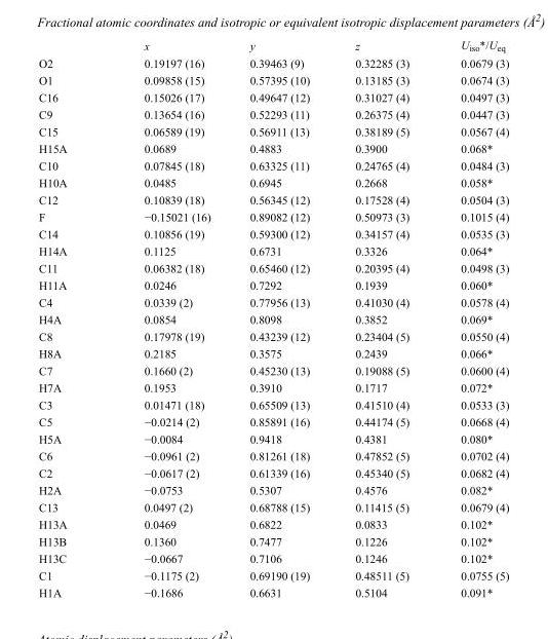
<table><thead><tr><td></td><td>x</td><td>y</td><td>z</td><td>U<sub>iso</sub>*/U<sub>eq</sub></td></tr></thead><tbody><tr><td>O2</td><td>0.19197 (16)</td><td>0.39463 (9)</td><td>0.32285 (3)</td><td>0.0679 (3)</td></tr><tr><td>O1</td><td>0.09858 (15)</td><td>0.57395 (10)</td><td>0.13185 (3)</td><td>0.0674 (3)</td></tr><tr><td>C16</td><td>0.15026 (17)</td><td>0.49647 (12)</td><td>0.31027 (4)</td><td>0.0497 (3)</td></tr><tr><td>C9</td><td>0.13654 (16)</td><td>0.52293 (11)</td><td>0.26375 (4)</td><td>0.0447 (3)</td></tr><tr><td>C15</td><td>0.06589 (19)</td><td>0.56911 (13)</td><td>0.38189 (5)</td><td>0.0567 (4)</td></tr><tr><td>H15A</td><td>0.0689</td><td>0.4883</td><td>0.3900</td><td>0.068*</td></tr><tr><td>C10</td><td>0.07845 (18)</td><td>0.63325 (11)</td><td>0.24765 (4)</td><td>0.0484 (3)</td></tr><tr><td>H10A</td><td>0.0485</td><td>0.6945</td><td>0.2668</td><td>0.058*</td></tr><tr><td>C12</td><td>0.10839 (18)</td><td>0.56345 (12)</td><td>0.17528 (4)</td><td>0.0504 (3)</td></tr><tr><td>F</td><td>−0.15021 (16)</td><td>0.89082 (12)</td><td>0.50973 (3)</td><td>0.1015 (4)</td></tr><tr><td>C14</td><td>0.10856 (19)</td><td>0.59300 (12)</td><td>0.34157 (4)</td><td>0.0535 (3)</td></tr><tr><td>H14A</td><td>0.1125</td><td>0.6731</td><td>0.3326</td><td>0.064*</td></tr><tr><td>C11</td><td>0.06382 (18)</td><td>0.65460 (12)</td><td>0.20395 (4)</td><td>0.0498 (3)</td></tr><tr><td>H11A</td><td>0.0246</td><td>0.7292</td><td>0.1939</td><td>0.060*</td></tr><tr><td>C4</td><td>0.0339 (2)</td><td>0.77956 (13)</td><td>0.41030 (4)</td><td>0.0578 (4)</td></tr><tr><td>H4A</td><td>0.0854</td><td>0.8098</td><td>0.3852</td><td>0.069*</td></tr><tr><td>C8</td><td>0.17978 (19)</td><td>0.43239 (12)</td><td>0.23404 (5)</td><td>0.0550 (4)</td></tr><tr><td>H8A</td><td>0.2185</td><td>0.3575</td><td>0.2439</td><td>0.066*</td></tr><tr><td>C7</td><td>0.1660 (2)</td><td>0.45230 (13)</td><td>0.19088 (5)</td><td>0.0600 (4)</td></tr><tr><td>H7A</td><td>0.1953</td><td>0.3910</td><td>0.1717</td><td>0.072*</td></tr><tr><td>C3</td><td>0.01471 (18)</td><td>0.65509 (13)</td><td>0.41510 (4)</td><td>0.0533 (3)</td></tr><tr><td>C5</td><td>−0.0214 (2)</td><td>0.85891 (16)</td><td>0.44174 (5)</td><td>0.0668 (4)</td></tr><tr><td>H5A</td><td>−0.0084</td><td>0.9418</td><td>0.4381</td><td>0.080*</td></tr><tr><td>C6</td><td>−0.0961 (2)</td><td>0.81261 (18)</td><td>0.47852 (5)</td><td>0.0702 (4)</td></tr><tr><td>C2</td><td>−0.0617 (2)</td><td>0.61339 (16)</td><td>0.45340 (5)</td><td>0.0682 (4)</td></tr><tr><td>H2A</td><td>−0.0753</td><td>0.5307</td><td>0.4576</td><td>0.082*</td></tr><tr><td>C13</td><td>0.0497 (2)</td><td>0.68788 (15)</td><td>0.11415 (5)</td><td>0.0679 (4)</td></tr><tr><td>H13A</td><td>0.0469</td><td>0.6822</td><td>0.0833</td><td>0.102*</td></tr><tr><td>H13B</td><td>0.1360</td><td>0.7477</td><td>0.1226</td><td>0.102*</td></tr><tr><td>H13C</td><td>−0.0667</td><td>0.7106</td><td>0.1246</td><td>0.102*</td></tr><tr><td>C1</td><td>−0.1175 (2)</td><td>0.69190 (19)</td><td>0.48511 (5)</td><td>0.0755 (5)</td></tr><tr><td>H1A</td><td>−0.1686</td><td>0.6631</td><td>0.5104</td><td>0.091*</td></tr></tbody></table>